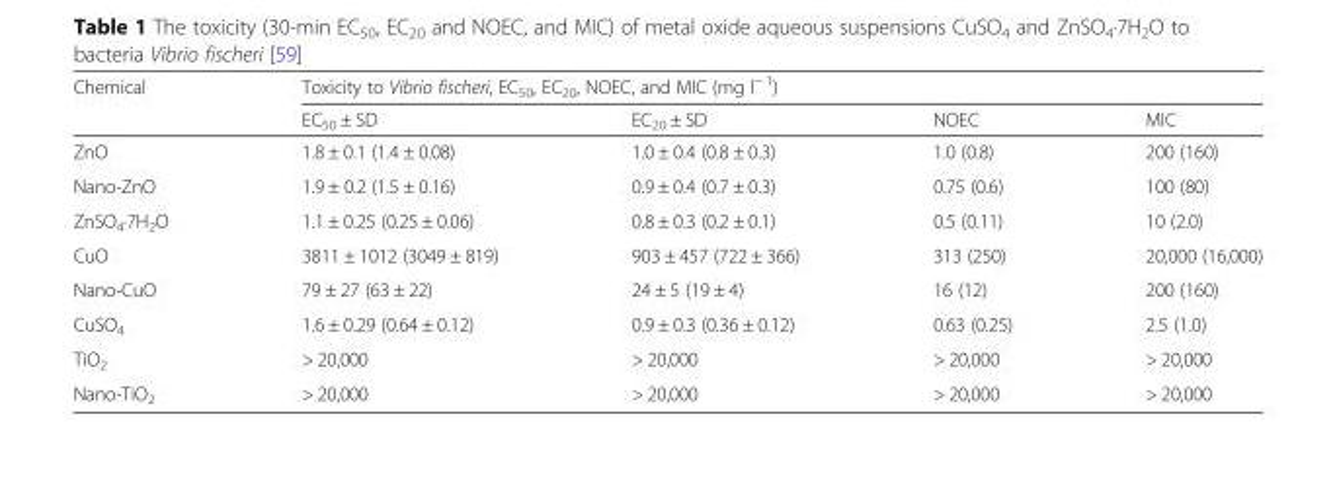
<table><thead><tr><td rowspan="2">Chemical</td><td colspan="4">Toxicity to Vibrio fischeri, EC<sub>50</sub>, EC<sub>20</sub>, NOEC, and MIC (mg l<sup>− 1</sup>)</td></tr><tr><td>EC<sub>50</sub> ± SD</td><td>EC<sub>20</sub> ± SD</td><td>NOEC</td><td>MIC</td></tr></thead><tbody><tr><td>ZnO</td><td>1.8 ± 0.1 (1.4 ± 0.08)</td><td>1.0 ± 0.4 (0.8 ± 0.3)</td><td>1.0 (0.8)</td><td>200 (160)</td></tr><tr><td>Nano-ZnO</td><td>1.9 ± 0.2 (1.5 ± 0.16)</td><td>0.9 ± 0.4 (0.7 ± 0.3)</td><td>0.75 (0.6)</td><td>100 (80)</td></tr><tr><td>ZnSO<sub>4</sub>·7H<sub>2</sub>O</td><td>1.1 ± 0.25 (0.25 ± 0.06)</td><td>0.8 ± 0.3 (0.2 ± 0.1)</td><td>0.5 (0.11)</td><td>10 (2.0)</td></tr><tr><td>CuO</td><td>3811 ± 1012 (3049 ± 819)</td><td>903 ± 457 (722 ± 366)</td><td>313 (250)</td><td>20,000 (16,000)</td></tr><tr><td>Nano-CuO</td><td>79 ± 27 (63 ± 22)</td><td>24 ± 5 (19 ± 4)</td><td>16 (12)</td><td>200 (160)</td></tr><tr><td>CuSO<sub>4</sub></td><td>1.6 ± 0.29 (0.64 ± 0.12)</td><td>0.9 ± 0.3 (0.36 ± 0.12)</td><td>0.63 (0.25)</td><td>2.5 (1.0)</td></tr><tr><td>TiO<sub>2</sub></td><td>&gt; 20,000</td><td>&gt; 20,000</td><td>&gt; 20,000</td><td>&gt; 20,000</td></tr><tr><td>Nano-TiO<sub>2</sub></td><td>&gt; 20,000</td><td>&gt; 20,000</td><td>&gt; 20,000</td><td>&gt; 20,000</td></tr></tbody></table>